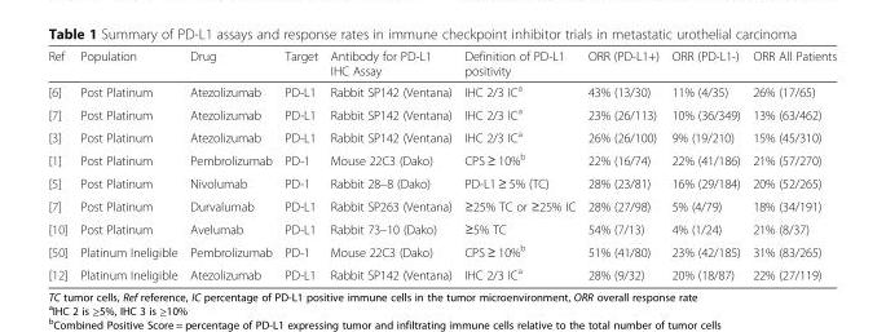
<table><thead><tr><td>Ref</td><td>Population</td><td>Drug</td><td>Target</td><td>Antibody for PD-L1 IHC Assay</td><td>Definition of PD-L1 positivity</td><td>ORR (PD-L1+)</td><td>ORR (PD-L1-)</td><td>ORR All Patients</td></tr></thead><tbody><tr><td>[6]</td><td>Post Platinum</td><td>Atezolizumab</td><td>PD-L1</td><td>Rabbit SP142 (Ventana)</td><td>IHC 2/3 IC<sup>a</sup></td><td>43% (13/30)</td><td>11% (4/35)</td><td>26% (17/65)</td></tr><tr><td>[7]</td><td>Post Platinum</td><td>Atezolizumab</td><td>PD-L1</td><td>Rabbit SP142 (Ventana)</td><td>IHC 2/3 IC<sup>a</sup></td><td>23% (26/113)</td><td>10% (36/349)</td><td>13% (63/462)</td></tr><tr><td>[3]</td><td>Post Platinum</td><td>Atezolizumab</td><td>PD-L1</td><td>Rabbit SP142 (Ventana)</td><td>IHC 2/3 IC<sup>a</sup></td><td>26% (26/100)</td><td>9% (19/210)</td><td>15% (45/310)</td></tr><tr><td>[1]</td><td>Post Platinum</td><td>Pembrolizumab</td><td>PD-1</td><td>Mouse 22C3 (Dako)</td><td>CPS ≥ 10%<sup>b</sup></td><td>22% (16/74)</td><td>22% (41/186)</td><td>21% (57/270)</td></tr><tr><td>[5]</td><td>Post Platinum</td><td>Nivolumab</td><td>PD-1</td><td>Rabbit 28–8 (Dako)</td><td>PD-L1 ≥ 5% (TC)</td><td>28% (23/81)</td><td>16% (29/184)</td><td>20% (52/265)</td></tr><tr><td>[7]</td><td>Post Platinum</td><td>Durvalumab</td><td>PD-L1</td><td>Rabbit SP263 (Ventana)</td><td>≥25% TC or ≥25% IC</td><td>28% (27/98)</td><td>5% (4/79)</td><td>18% (34/191)</td></tr><tr><td>[10]</td><td>Post Platinum</td><td>Avelumab</td><td>PD-L1</td><td>Rabbit 73–10 (Dako)</td><td>≥5% TC</td><td>54% (7/13)</td><td>4% (1/24)</td><td>21% (8/37)</td></tr><tr><td>[50]</td><td>Platinum Ineligible</td><td>Pembrolizumab</td><td>PD-1</td><td>Mouse 22C3 (Dako)</td><td>CPS ≥ 10%<sup>b</sup></td><td>51% (41/80)</td><td>23% (42/185)</td><td>31% (83/265)</td></tr><tr><td>[12]</td><td>Platinum Ineligible</td><td>Atezolizumab</td><td>PD-L1</td><td>Rabbit SP142 (Ventana)</td><td>IHC 2/3 IC<sup>a</sup></td><td>28% (9/32)</td><td>20% (18/87)</td><td>22% (27/119)</td></tr></tbody></table>